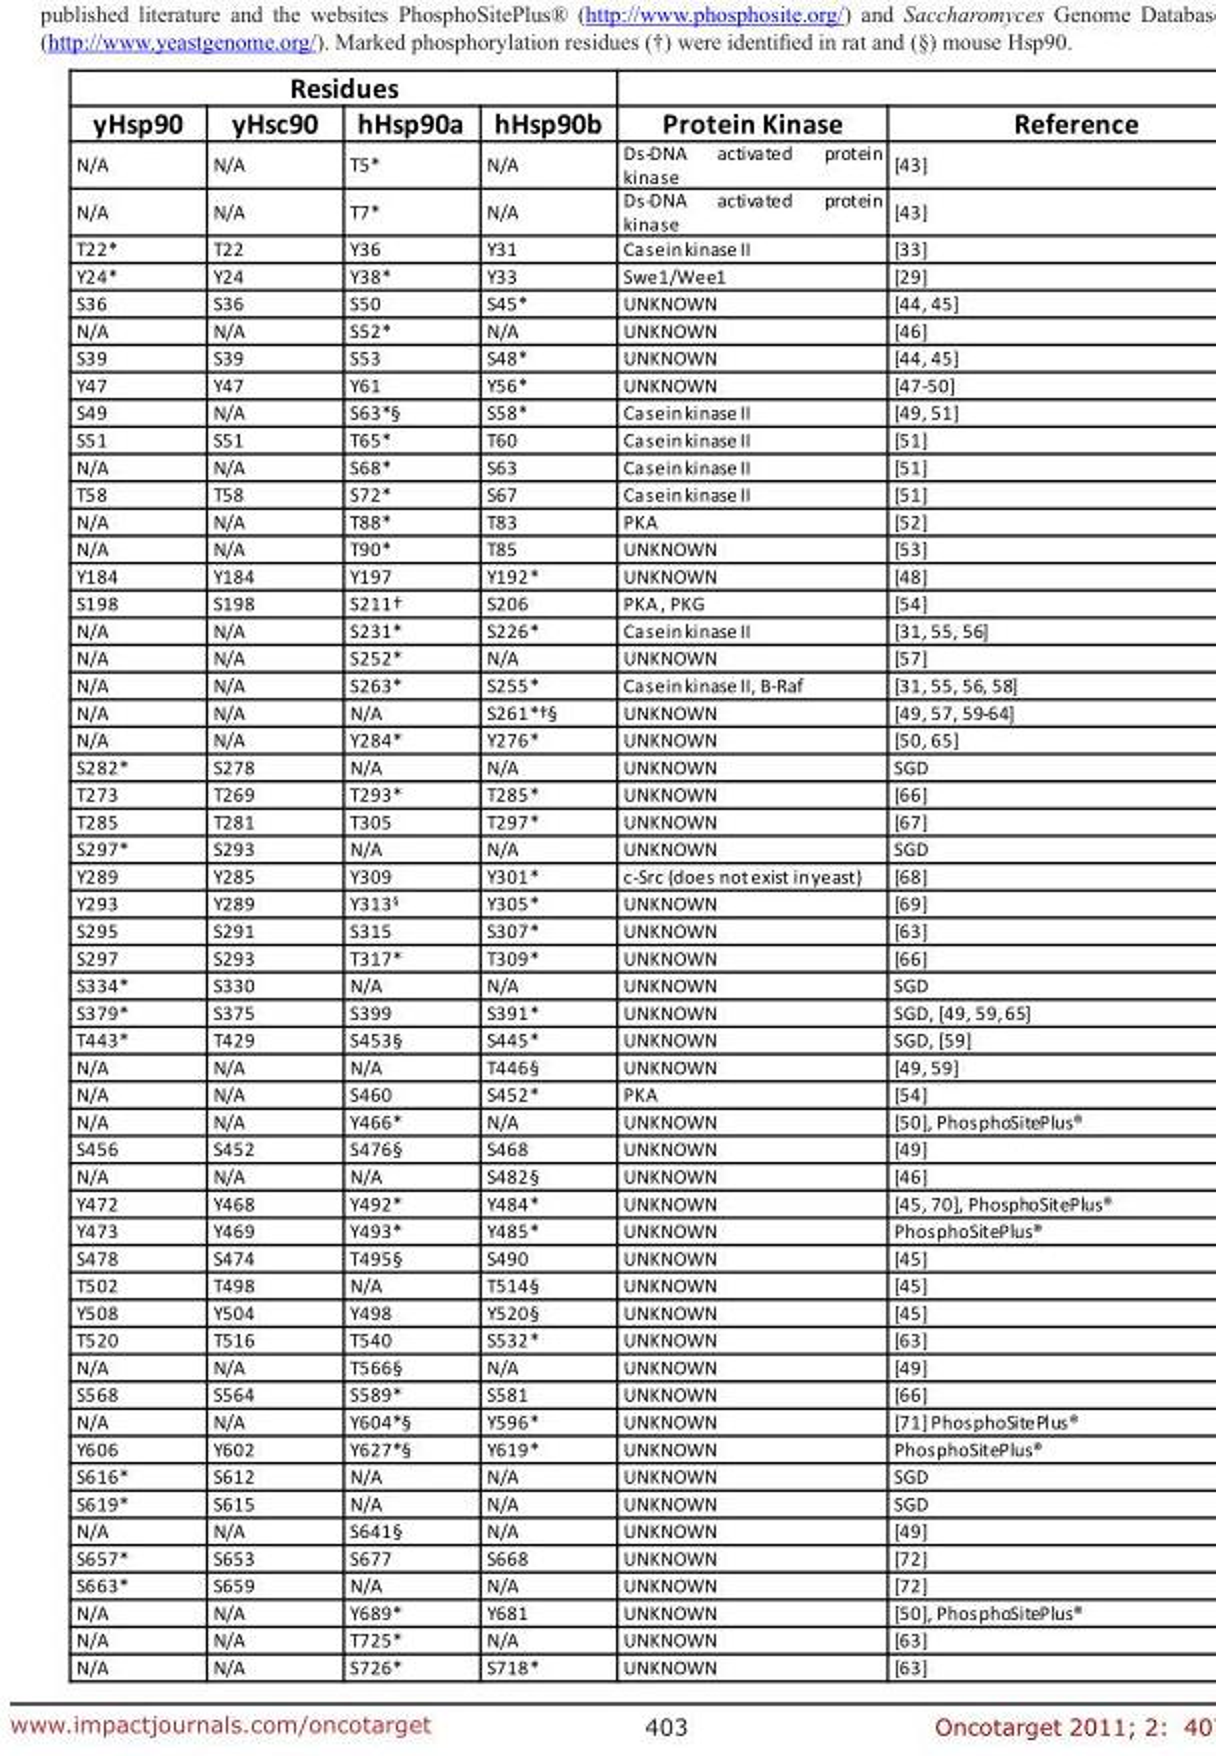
<table><thead><tr><td colspan="4">Residues</td><td rowspan="2">Protein Kinase</td><td rowspan="2">Reference</td></tr><tr><td>yHsp90</td><td>yHsc90</td><td>hHsp90a</td><td>hHsp90b</td></tr></thead><tbody><tr><td>N/A</td><td>N/A</td><td>T5*</td><td>N/A</td><td>Ds-DNA activated protein kinase</td><td>[43]</td></tr><tr><td>N/A</td><td>N/A</td><td>T7*</td><td>N/A</td><td>Ds-DNA activated protein kinase</td><td>[43]</td></tr><tr><td>T22*</td><td>T22</td><td>Y36</td><td>Y31</td><td>CaseinkinaseII</td><td>[33]</td></tr><tr><td>Y24*</td><td>Y24</td><td>Y38*</td><td>Y33</td><td>Swe1/Wee1</td><td>[29]</td></tr><tr><td>S36</td><td>S36</td><td>S50</td><td>S45*</td><td>UNKNOWN</td><td>[44, 45]</td></tr><tr><td>N/A</td><td>N/A</td><td>S52*</td><td>N/A</td><td>UNKNOWN</td><td>[46]</td></tr><tr><td>S39</td><td>S39</td><td>S53</td><td>S48*</td><td>UNKNOWN</td><td>[44, 45]</td></tr><tr><td>Y47</td><td>Y47</td><td>Y61</td><td>Y56*</td><td>UNKNOWN</td><td>[47-50]</td></tr><tr><td>S49</td><td>N/A</td><td>S63*§</td><td>S58*</td><td>CaseinkinaseII</td><td>[49, 51]</td></tr><tr><td>S51</td><td>S51</td><td>T65*</td><td>T60</td><td>CaseinkinaseII</td><td>[51]</td></tr><tr><td>N/A</td><td>N/A</td><td>S68*</td><td>S63</td><td>CaseinkinaseII</td><td>[51]</td></tr><tr><td>T58</td><td>T58</td><td>S72*</td><td>S67</td><td>CaseinkinaseII</td><td>[51]</td></tr><tr><td>N/A</td><td>N/A</td><td>T88*</td><td>T83</td><td>PKA</td><td>[52]</td></tr><tr><td>N/A</td><td>N/A</td><td>T90*</td><td>T85</td><td>UNKNOWN</td><td>[53]</td></tr><tr><td>Y184</td><td>Y184</td><td>Y197</td><td>Y192*</td><td>UNKNOWN</td><td>[48]</td></tr><tr><td>S198</td><td>S198</td><td>S211†</td><td>S206</td><td>PKA, PKG</td><td>[54]</td></tr><tr><td>N/A</td><td>N/A</td><td>S231*</td><td>S226*</td><td>CaseinkinaseII</td><td>[31, 55, 56]</td></tr><tr><td>N/A</td><td>N/A</td><td>S252*</td><td>N/A</td><td>UNKNOWN</td><td>[57]</td></tr><tr><td>N/A</td><td>N/A</td><td>S263*</td><td>S255*</td><td>CaseinkinaseII, B-Raf</td><td>[31, 55, 56, 58]</td></tr><tr><td>N/A</td><td>N/A</td><td>N/A</td><td>S261*†§</td><td>UNKNOWN</td><td>[49, 57, 59-64]</td></tr><tr><td>N/A</td><td>N/A</td><td>Y284*</td><td>Y276*</td><td>UNKNOWN</td><td>[50, 65]</td></tr><tr><td>S282*</td><td>S278</td><td>N/A</td><td>N/A</td><td>UNKNOWN</td><td>SGD</td></tr><tr><td>T273</td><td>T269</td><td>T293*</td><td>T285*</td><td>UNKNOWN</td><td>[66]</td></tr><tr><td>T285</td><td>T281</td><td>T305</td><td>T297*</td><td>UNKNOWN</td><td>[67]</td></tr><tr><td>S297*</td><td>S293</td><td>N/A</td><td>N/A</td><td>UNKNOWN</td><td>SGD</td></tr><tr><td>Y289</td><td>Y285</td><td>Y309</td><td>Y301*</td><td>c-Src (does notexist inyeast)</td><td>[68]</td></tr><tr><td>Y293</td><td>Y289</td><td>Y313§</td><td>Y305*</td><td>UNKNOWN</td><td>[69]</td></tr><tr><td>S295</td><td>S291</td><td>S315</td><td>S307*</td><td>UNKNOWN</td><td>[63]</td></tr><tr><td>S297</td><td>S293</td><td>T317*</td><td>T309*</td><td>UNKNOWN</td><td>[66]</td></tr><tr><td>S334*</td><td>S330</td><td>N/A</td><td>N/A</td><td>UNKNOWN</td><td>SGD</td></tr><tr><td>S379*</td><td>S375</td><td>S399</td><td>S391*</td><td>UNKNOWN</td><td>SGD, [49, 59,65]</td></tr><tr><td>T443*</td><td>T429</td><td>S453§</td><td>S445*</td><td>UNKNOWN</td><td>SGD, [59]</td></tr><tr><td>N/A</td><td>N/A</td><td>N/A</td><td>T446§</td><td>UNKNOWN</td><td>[49, 59]</td></tr><tr><td>N/A</td><td>N/A</td><td>S460</td><td>S452*</td><td>PKA</td><td>[54]</td></tr><tr><td>N/A</td><td>N/A</td><td>Y466*</td><td>N/A</td><td>UNKNOWN</td><td>[50], PhosphoSitePlus®</td></tr><tr><td>S456</td><td>S452</td><td>S476§</td><td>S468</td><td>UNKNOWN</td><td>[49]</td></tr><tr><td>N/A</td><td>N/A</td><td>N/A</td><td>S482§</td><td>UNKNOWN</td><td>[46]</td></tr><tr><td>Y472</td><td>Y468</td><td>Y492*</td><td>Y484*</td><td>UNKNOWN</td><td>[45, 70], PhosphoSitePlus®</td></tr><tr><td>Y473</td><td>Y469</td><td>Y493*</td><td>Y485*</td><td>UNKNOWN</td><td>PhosphoSitePlus®</td></tr><tr><td>S478</td><td>S474</td><td>T495§</td><td>S490</td><td>UNKNOWN</td><td>[45]</td></tr><tr><td>T502</td><td>T498</td><td>N/A</td><td>T514§</td><td>UNKNOWN</td><td>[45]</td></tr><tr><td>Y508</td><td>Y504</td><td>Y498</td><td>Y520§</td><td>UNKNOWN</td><td>[45]</td></tr><tr><td>T520</td><td>T516</td><td>T540</td><td>S532*</td><td>UNKNOWN</td><td>[63]</td></tr><tr><td>N/A</td><td>N/A</td><td>T566§</td><td>N/A</td><td>UNKNOWN</td><td>[49]</td></tr><tr><td>S568</td><td>S564</td><td>S589*</td><td>S581</td><td>UNKNOWN</td><td>[66]</td></tr><tr><td>N/A</td><td>N/A</td><td>Y604*§</td><td>Y596*</td><td>UNKNOWN</td><td>[71]PhosphoSitePlus®</td></tr><tr><td>Y606</td><td>Y602</td><td>Y627*§</td><td>Y619*</td><td>UNKNOWN</td><td>PhosphoSitePlus®</td></tr><tr><td>S616*</td><td>S612</td><td>N/A</td><td>N/A</td><td>UNKNOWN</td><td>SGD</td></tr><tr><td>S619*</td><td>S615</td><td>N/A</td><td>N/A</td><td>UNKNOWN</td><td>SGD</td></tr><tr><td>N/A</td><td>N/A</td><td>S641§</td><td>N/A</td><td>UNKNOWN</td><td>[49]</td></tr><tr><td>S657*</td><td>S653</td><td>S677</td><td>S668</td><td>UNKNOWN</td><td>[72]</td></tr><tr><td>S663*</td><td>S659</td><td>N/A</td><td>N/A</td><td>UNKNOWN</td><td>[72]</td></tr><tr><td>N/A</td><td>N/A</td><td>Y689*</td><td>Y681</td><td>UNKNOWN</td><td>[50], PhosphoSitePlus®</td></tr><tr><td>N/A</td><td>N/A</td><td>T725*</td><td>N/A</td><td>UNKNOWN</td><td>[63]</td></tr><tr><td>N/A</td><td>N/A</td><td>S726*</td><td>S718*</td><td>UNKNOWN</td><td>[63]</td></tr></tbody></table>